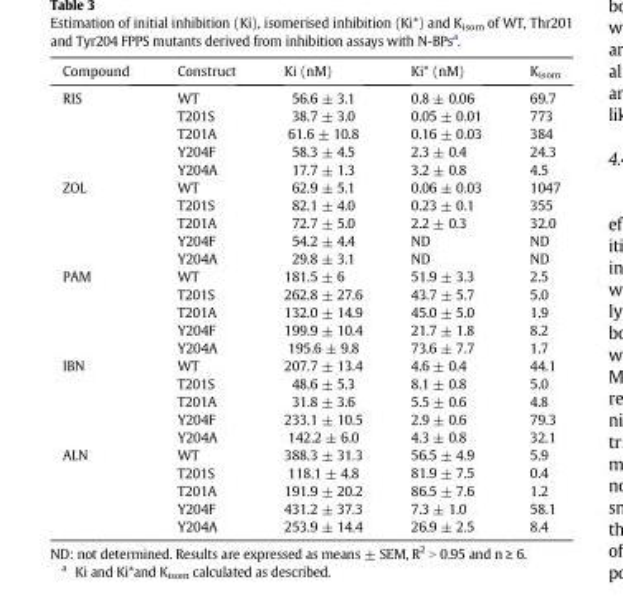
<table><thead><tr><td>Compound</td><td>Construct</td><td>Ki (nM)</td><td>Ki* (nM)</td><td>K<sub>isom</sub></td></tr></thead><tbody><tr><td>RIS</td><td>WT T201S T201A Y204F Y204A</td><td>56.6 ± 3.1 38.7 ± 3.0 61.6 ± 10.8 58.3 ± 4.5 17.7 ± 1.3</td><td>0.8 ± 0.06 0.05 ± 0.01 0.16 ± 0.03 2.3 ± 0.4 3.2 ± 0.8</td><td>69.7 773 384 24.3 4.5</td></tr><tr><td>ZOL</td><td>WT T201S T201A Y204F Y204A</td><td>62.9 ± 5.1 82.1 ± 4.0 72.7 ± 5.0 54.2 ± 4.4 29.8 ± 3.1</td><td>0.06 ± 0.03 0.23 ± 0.1 2.2 ± 0.3 ND ND</td><td>1047 355 32.0 ND ND</td></tr><tr><td>PAM</td><td>WT T201S T201A Y204F Y204A</td><td>181.5 ± 6 262.8 ± 27.6 132.0 ± 14.9 199.9 ± 10.4 195.6 ± 9.8</td><td>51.9 ± 3.3 43.7 ± 5.7 45.0 ± 5.0 21.7 ± 1.8 73.6 ± 7.7</td><td>2.5 5.0 1.9 8.2 1.7</td></tr><tr><td>IBN</td><td>WT T201S T201A Y204F Y204A</td><td>207.7 ± 13.4 48.6 ± 5.3 31.8 ± 3.6 233.1 ± 10.5 142.2 ± 6.0</td><td>4.6 ± 0.4 8.1 ± 0.8 5.5 ± 0.6 2.9 ± 0.6 4.3 ± 0.8</td><td>44.1 5.0 4.8 79.3 32.1</td></tr><tr><td>ALN</td><td>WT T201S T201A Y204F Y204A</td><td>388.3 ± 31.3 118.1 ± 4.8 191.9 ± 20.2 431.2 ± 37.3 253.9 ± 14.4</td><td>56.5 ± 4.9 81.9 ± 7.5 86.5 ± 7.6 7.3 ± 1.0 26.9 ± 2.5</td><td>5.9 0.4 1.2 58.1 8.4</td></tr></tbody></table>